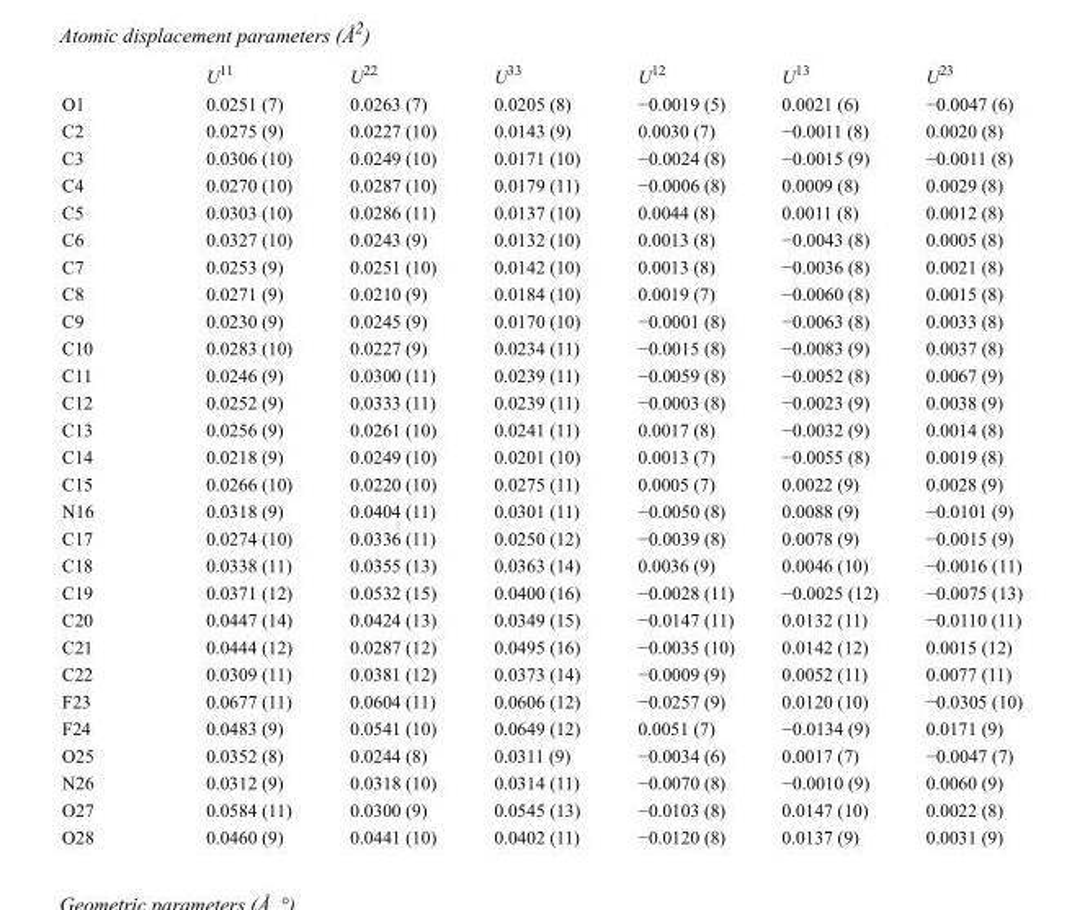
<table><thead><tr><td></td><td>U<sup>11</sup></td><td>U<sup>22</sup></td><td>U<sup>33</sup></td><td>U<sup>12</sup></td><td>U<sup>13</sup></td><td>U<sup>23</sup></td></tr></thead><tbody><tr><td>O1</td><td>0.0251 (7)</td><td>0.0263 (7)</td><td>0.0205 (8)</td><td>−0.0019 (5)</td><td>0.0021 (6)</td><td>−0.0047 (6)</td></tr><tr><td>C2</td><td>0.0275 (9)</td><td>0.0227 (10)</td><td>0.0143 (9)</td><td>0.0030 (7)</td><td>−0.0011 (8)</td><td>0.0020 (8)</td></tr><tr><td>C3</td><td>0.0306 (10)</td><td>0.0249 (10)</td><td>0.0171 (10)</td><td>−0.0024 (8)</td><td>−0.0015 (9)</td><td>−0.0011 (8)</td></tr><tr><td>C4</td><td>0.0270 (10)</td><td>0.0287 (10)</td><td>0.0179 (11)</td><td>−0.0006 (8)</td><td>0.0009 (8)</td><td>0.0029 (8)</td></tr><tr><td>C5</td><td>0.0303 (10)</td><td>0.0286 (11)</td><td>0.0137 (10)</td><td>0.0044 (8)</td><td>0.0011 (8)</td><td>0.0012 (8)</td></tr><tr><td>C6</td><td>0.0327 (10)</td><td>0.0243 (9)</td><td>0.0132 (10)</td><td>0.0013 (8)</td><td>−0.0043 (8)</td><td>0.0005 (8)</td></tr><tr><td>C7</td><td>0.0253 (9)</td><td>0.0251 (10)</td><td>0.0142 (10)</td><td>0.0013 (8)</td><td>−0.0036 (8)</td><td>0.0021 (8)</td></tr><tr><td>C8</td><td>0.0271 (9)</td><td>0.0210 (9)</td><td>0.0184 (10)</td><td>0.0019 (7)</td><td>−0.0060 (8)</td><td>0.0015 (8)</td></tr><tr><td>C9</td><td>0.0230 (9)</td><td>0.0245 (9)</td><td>0.0170 (10)</td><td>−0.0001 (8)</td><td>−0.0063 (8)</td><td>0.0033 (8)</td></tr><tr><td>C10</td><td>0.0283 (10)</td><td>0.0227 (9)</td><td>0.0234 (11)</td><td>−0.0015 (8)</td><td>−0.0083 (9)</td><td>0.0037 (8)</td></tr><tr><td>C11</td><td>0.0246 (9)</td><td>0.0300 (11)</td><td>0.0239 (11)</td><td>−0.0059 (8)</td><td>−0.0052 (8)</td><td>0.0067 (9)</td></tr><tr><td>C12</td><td>0.0252 (9)</td><td>0.0333 (11)</td><td>0.0239 (11)</td><td>−0.0003 (8)</td><td>−0.0023 (9)</td><td>0.0038 (9)</td></tr><tr><td>C13</td><td>0.0256 (9)</td><td>0.0261 (10)</td><td>0.0241 (11)</td><td>0.0017 (8)</td><td>−0.0032 (9)</td><td>0.0014 (8)</td></tr><tr><td>C14</td><td>0.0218 (9)</td><td>0.0249 (10)</td><td>0.0201 (10)</td><td>0.0013 (7)</td><td>−0.0055 (8)</td><td>0.0019 (8)</td></tr><tr><td>C15</td><td>0.0266 (10)</td><td>0.0220 (10)</td><td>0.0275 (11)</td><td>0.0005 (7)</td><td>0.0022 (9)</td><td>0.0028 (9)</td></tr><tr><td>N16</td><td>0.0318 (9)</td><td>0.0404 (11)</td><td>0.0301 (11)</td><td>−0.0050 (8)</td><td>0.0088 (9)</td><td>−0.0101 (9)</td></tr><tr><td>C17</td><td>0.0274 (10)</td><td>0.0336 (11)</td><td>0.0250 (12)</td><td>−0.0039 (8)</td><td>0.0078 (9)</td><td>−0.0015 (9)</td></tr><tr><td>C18</td><td>0.0338 (11)</td><td>0.0355 (13)</td><td>0.0363 (14)</td><td>0.0036 (9)</td><td>0.0046 (10)</td><td>−0.0016 (11)</td></tr><tr><td>C19</td><td>0.0371 (12)</td><td>0.0532 (15)</td><td>0.0400 (16)</td><td>−0.0028 (11)</td><td>−0.0025 (12)</td><td>−0.0075 (13)</td></tr><tr><td>C20</td><td>0.0447 (14)</td><td>0.0424 (13)</td><td>0.0349 (15)</td><td>−0.0147 (11)</td><td>0.0132 (11)</td><td>−0.0110 (11)</td></tr><tr><td>C21</td><td>0.0444 (12)</td><td>0.0287 (12)</td><td>0.0495 (16)</td><td>−0.0035 (10)</td><td>0.0142 (12)</td><td>0.0015 (12)</td></tr><tr><td>C22</td><td>0.0309 (11)</td><td>0.0381 (12)</td><td>0.0373 (14)</td><td>−0.0009 (9)</td><td>0.0052 (11)</td><td>0.0077 (11)</td></tr><tr><td>F23</td><td>0.0677 (11)</td><td>0.0604 (11)</td><td>0.0606 (12)</td><td>−0.0257 (9)</td><td>0.0120 (10)</td><td>−0.0305 (10)</td></tr><tr><td>F24</td><td>0.0483 (9)</td><td>0.0541 (10)</td><td>0.0649 (12)</td><td>0.0051 (7)</td><td>−0.0134 (9)</td><td>0.0171 (9)</td></tr><tr><td>O25</td><td>0.0352 (8)</td><td>0.0244 (8)</td><td>0.0311 (9)</td><td>−0.0034 (6)</td><td>0.0017 (7)</td><td>−0.0047 (7)</td></tr><tr><td>N26</td><td>0.0312 (9)</td><td>0.0318 (10)</td><td>0.0314 (11)</td><td>−0.0070 (8)</td><td>−0.0010 (9)</td><td>0.0060 (9)</td></tr><tr><td>O27</td><td>0.0584 (11)</td><td>0.0300 (9)</td><td>0.0545 (13)</td><td>−0.0103 (8)</td><td>0.0147 (10)</td><td>0.0022 (8)</td></tr><tr><td>O28</td><td>0.0460 (9)</td><td>0.0441 (10)</td><td>0.0402 (11)</td><td>−0.0120 (8)</td><td>0.0137 (9)</td><td>0.0031 (9)</td></tr></tbody></table>